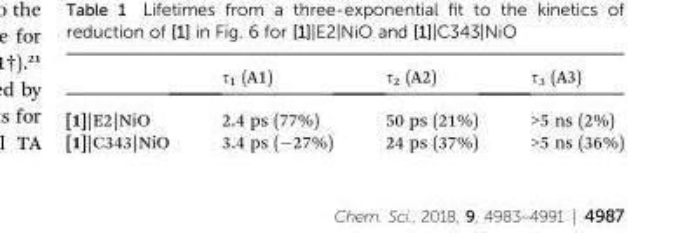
<table><thead><tr><td></td><td>τ<sub>1</sub> (A1)</td><td>τ<sub>2</sub> (A2)</td><td>τ<sub>3</sub> (A3)</td></tr></thead><tbody><tr><td>[1]|E2|NiO</td><td>2.4 ps (77%)</td><td>50 ps (21%)</td><td>&gt;5 ns (2%)</td></tr><tr><td>[1]|C343|NiO</td><td>3.4 ps (–27%)</td><td>24 ps (37%)</td><td>&gt;5 ns (36%)</td></tr></tbody></table>